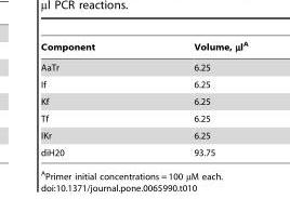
<table><thead><tr><td>Component</td><td>Volume, µl<sup>A</sup></td></tr></thead><tbody><tr><td>AaTr</td><td>6.25</td></tr><tr><td>If</td><td>6.25</td></tr><tr><td>Kf</td><td>6.25</td></tr><tr><td>Tf</td><td>6.25</td></tr><tr><td>IKr</td><td>6.25</td></tr><tr><td>diH20</td><td>93.75</td></tr></tbody></table>